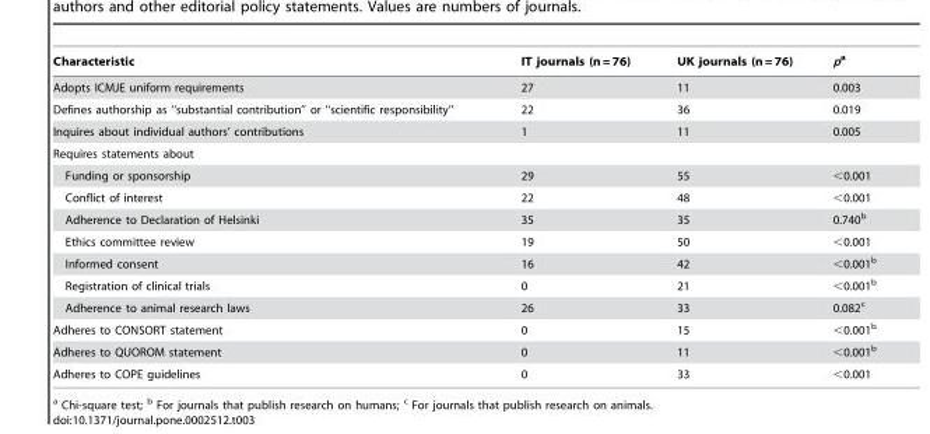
<table><thead><tr><td>Characteristic</td><td>IT journals (n = 76)</td><td>UK journals (n = 76)</td><td>p<sup>a</sup></td></tr></thead><tbody><tr><td>Adopts ICMJE uniform requirements</td><td>27</td><td>11</td><td>0.003</td></tr><tr><td>Defines authorship as ‘‘substantial contribution’’ or ‘‘scientific responsibility’’</td><td>22</td><td>36</td><td>0.019</td></tr><tr><td>Inquires about individual authors’ contributions</td><td>1</td><td>11</td><td>0.005</td></tr><tr><td colspan="4">Requires statements about</td></tr><tr><td>Funding or sponsorship</td><td>29</td><td>55</td><td>&lt;0.001</td></tr><tr><td>Conflict of interest</td><td>22</td><td>48</td><td>&lt;0.001</td></tr><tr><td>Adherence to Declaration of Helsinki</td><td>35</td><td>35</td><td>0.740<sup>b</sup></td></tr><tr><td>Ethics committee review</td><td>19</td><td>50</td><td>&lt;0.001</td></tr><tr><td>Informed consent</td><td>16</td><td>42</td><td>&lt;0.001<sup>b</sup></td></tr><tr><td>Registration of clinical trials</td><td>0</td><td>21</td><td>&lt;0.001<sup>b</sup></td></tr><tr><td>Adherence to animal research laws</td><td>26</td><td>33</td><td>0.082<sup>c</sup></td></tr><tr><td>Adheres to CONSORT statement</td><td>0</td><td>15</td><td>&lt;0.001<sup>b</sup></td></tr><tr><td>Adheres to QUOROM statement</td><td>0</td><td>11</td><td>&lt;0.001<sup>b</sup></td></tr><tr><td>Adheres to COPE guidelines</td><td>0</td><td>33</td><td>&lt;0.001</td></tr></tbody></table>